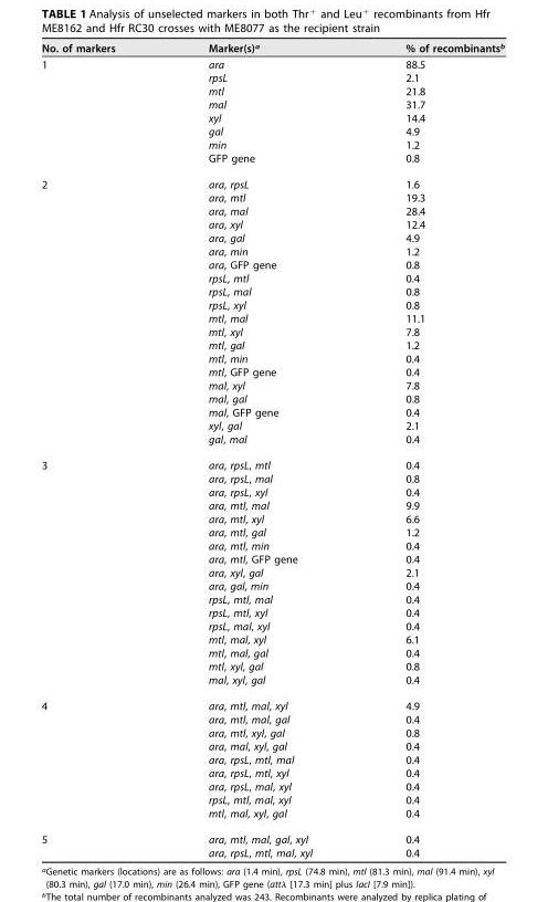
<table><thead><tr><td>No. of markers</td><td>Marker(s)<sup>a</sup></td><td>% of recombinants<sup>b</sup></td></tr></thead><tbody><tr><td rowspan="8">1</td><td>ara</td><td>88.5</td></tr><tr><td>rpsL</td><td>2.1</td></tr><tr><td>mtl</td><td>21.8</td></tr><tr><td>mal</td><td>31.7</td></tr><tr><td>xyl</td><td>14.4</td></tr><tr><td>gal</td><td>4.9</td></tr><tr><td>min</td><td>1.2</td></tr><tr><td>GFP gene</td><td>0.8</td></tr><tr><td rowspan="20">2</td><td>ara, rpsL</td><td>1.6</td></tr><tr><td>ara, mtl</td><td>19.3</td></tr><tr><td>ara, mal</td><td>28.4</td></tr><tr><td>ara, xyl</td><td>12.4</td></tr><tr><td>ara, gal</td><td>4.9</td></tr><tr><td>ara, min</td><td>1.2</td></tr><tr><td>ara, GFP gene</td><td>0.8</td></tr><tr><td>rpsL, mtl</td><td>0.4</td></tr><tr><td>rpsL, mal</td><td>0.8</td></tr><tr><td>rpsL, xyl</td><td>0.8</td></tr><tr><td>mtl, mal</td><td>11.1</td></tr><tr><td>mtl, xyl</td><td>7.8</td></tr><tr><td>mtl, gal</td><td>1.2</td></tr><tr><td>mtl, min</td><td>0.4</td></tr><tr><td>mtl, GFP gene</td><td>0.4</td></tr><tr><td>mal, xyl</td><td>7.8</td></tr><tr><td>mal, gal</td><td>0.8</td></tr><tr><td>mal, GFP gene</td><td>0.4</td></tr><tr><td>xyl, gal</td><td>2.1</td></tr><tr><td>gal, mal</td><td>0.4</td></tr><tr><td rowspan="17">3</td><td>ara, rpsL, mtl</td><td>0.4</td></tr><tr><td>ara, rpsL, mal</td><td>0.8</td></tr><tr><td>ara, rpsL, xyl</td><td>0.4</td></tr><tr><td>ara, mtl, mal</td><td>9.9</td></tr><tr><td>ara, mtl, xyl</td><td>6.6</td></tr><tr><td>ara, mtl, gal</td><td>1.2</td></tr><tr><td>ara, mtl, min</td><td>0.4</td></tr><tr><td>ara, mtl, GFP gene</td><td>0.4</td></tr><tr><td>ara, xyl, gal</td><td>2.1</td></tr><tr><td>ara, gal, min</td><td>0.4</td></tr><tr><td>rpsL, mtl, mal</td><td>0.4</td></tr><tr><td>rpsL, mtl, xyl</td><td>0.4</td></tr><tr><td>rpsL, mal, xyl</td><td>0.4</td></tr><tr><td>mtl, mal, xyl</td><td>6.1</td></tr><tr><td>mtl, mal, gal</td><td>0.4</td></tr><tr><td>mtl, xyl, gal</td><td>0.8</td></tr><tr><td>mal, xyl, gal</td><td>0.4</td></tr><tr><td rowspan="9">4</td><td>ara, mtl, mal, xyl</td><td>4.9</td></tr><tr><td>ara, mtl, mal, gal</td><td>0.4</td></tr><tr><td>ara, mtl, xyl, gal</td><td>0.8</td></tr><tr><td>ara, mal, xyl, gal</td><td>0.4</td></tr><tr><td>ara, rpsL, mtl, mal</td><td>0.4</td></tr><tr><td>ara, rpsL, mtl, xyl</td><td>0.4</td></tr><tr><td>ara, rpsL, mal, xyl</td><td>0.4</td></tr><tr><td>rpsL, mtl, mal, xyl</td><td>0.4</td></tr><tr><td>mtl, mal, xyl, gal</td><td>0.4</td></tr><tr><td rowspan="2">5</td><td>ara, mtl, mal, gal, xyl</td><td>0.4</td></tr><tr><td>ara, rpsL, mtl, mal, xyl</td><td>0.4</td></tr></tbody></table>